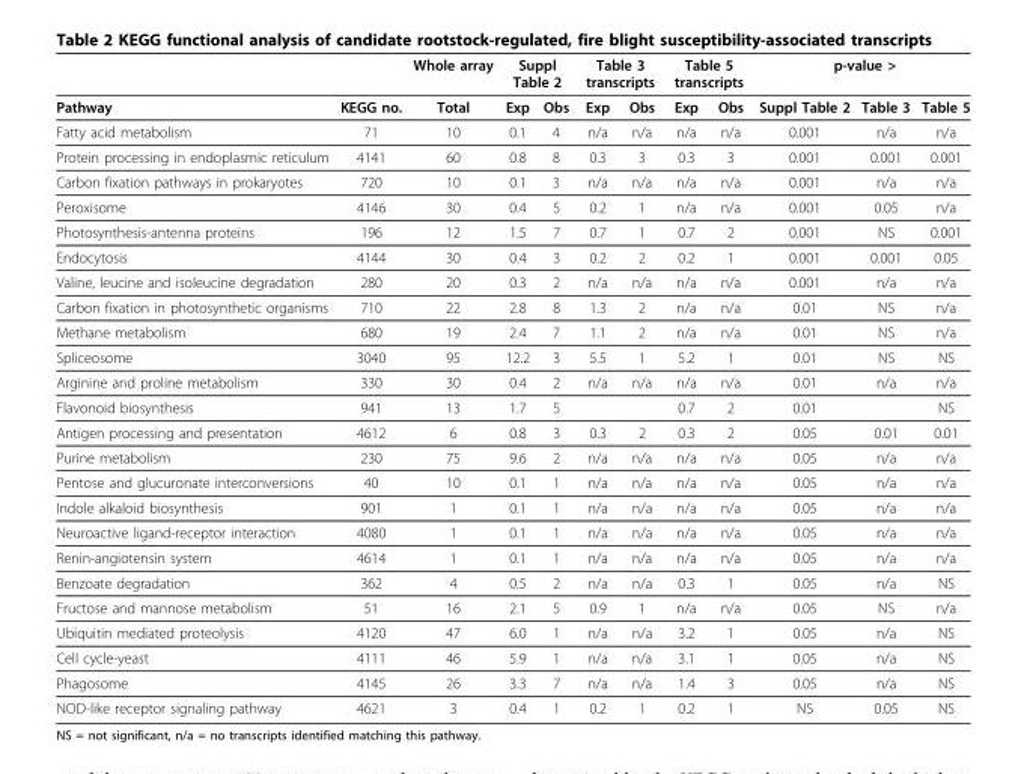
<table><thead><tr><td rowspan="2">Pathway</td><td rowspan="2">KEGG no.</td><td rowspan="2">Whole array Total</td><td colspan="2">Suppl Table 2</td><td colspan="2">Table 3 transcripts</td><td colspan="2">Table 5 transcripts</td><td colspan="3">p-value &gt;</td></tr><tr><td>Exp</td><td>Obs</td><td>Exp</td><td>Obs</td><td>Exp</td><td>Obs</td><td>Suppl Table 2</td><td>Table 3</td><td>Table 5</td></tr></thead><tbody><tr><td>Fatty acid metabolism</td><td>71</td><td>10</td><td>0.1</td><td>4</td><td>n/a</td><td>n/a</td><td>n/a</td><td>n/a</td><td>0.001</td><td>n/a</td><td>n/a</td></tr><tr><td>Protein processing in endoplasmic reticulum</td><td>4141</td><td>60</td><td>0.8</td><td>8</td><td>0.3</td><td>3</td><td>0.3</td><td>3</td><td>0.001</td><td>0.001</td><td>0.001</td></tr><tr><td>Carbon fixation pathways in prokaryotes</td><td>720</td><td>10</td><td>0.1</td><td>3</td><td>n/a</td><td>n/a</td><td>n/a</td><td>n/a</td><td>0.001</td><td>n/a</td><td>n/a</td></tr><tr><td>Peroxisome</td><td>4146</td><td>30</td><td>0.4</td><td>5</td><td>0.2</td><td>1</td><td>n/a</td><td>n/a</td><td>0.001</td><td>0.05</td><td>n/a</td></tr><tr><td>Photosynthesis-antenna proteins</td><td>196</td><td>12</td><td>1.5</td><td>7</td><td>0.7</td><td>1</td><td>0.7</td><td>2</td><td>0.001</td><td>NS</td><td>0.001</td></tr><tr><td>Endocytosis</td><td>4144</td><td>30</td><td>0.4</td><td>3</td><td>0.2</td><td>2</td><td>0.2</td><td>1</td><td>0.001</td><td>0.001</td><td>0.05</td></tr><tr><td>Valine, leucine and isoleucine degradation</td><td>280</td><td>20</td><td>0.3</td><td>2</td><td>n/a</td><td>n/a</td><td>n/a</td><td>n/a</td><td>0.001</td><td>n/a</td><td>n/a</td></tr><tr><td>Carbon fixation in photosynthetic organisms</td><td>710</td><td>22</td><td>2.8</td><td>8</td><td>1.3</td><td>2</td><td>n/a</td><td>n/a</td><td>0.01</td><td>NS</td><td>n/a</td></tr><tr><td>Methane metabolism</td><td>680</td><td>19</td><td>2.4</td><td>7</td><td>1.1</td><td>2</td><td>n/a</td><td>n/a</td><td>0.01</td><td>NS</td><td>n/a</td></tr><tr><td>Spliceosome</td><td>3040</td><td>95</td><td>12.2</td><td>3</td><td>5.5</td><td>1</td><td>5.2</td><td>1</td><td>0.01</td><td>NS</td><td>NS</td></tr><tr><td>Arginine and proline metabolism</td><td>330</td><td>30</td><td>0.4</td><td>2</td><td>n/a</td><td>n/a</td><td>n/a</td><td>n/a</td><td>0.01</td><td>n/a</td><td>n/a</td></tr><tr><td>Flavonoid biosynthesis</td><td>941</td><td>13</td><td>1.7</td><td>5</td><td></td><td></td><td>0.7</td><td>2</td><td>0.01</td><td></td><td>NS</td></tr><tr><td>Antigen processing and presentation</td><td>4612</td><td>6</td><td>0.8</td><td>3</td><td>0.3</td><td>2</td><td>0.3</td><td>2</td><td>0.05</td><td>0.01</td><td>0.01</td></tr><tr><td>Purine metabolism</td><td>230</td><td>75</td><td>9.6</td><td>2</td><td>n/a</td><td>n/a</td><td>n/a</td><td>n/a</td><td>0.05</td><td>n/a</td><td>n/a</td></tr><tr><td>Pentose and glucuronate interconversions</td><td>40</td><td>10</td><td>0.1</td><td>1</td><td>n/a</td><td>n/a</td><td>n/a</td><td>n/a</td><td>0.05</td><td>n/a</td><td>n/a</td></tr><tr><td>Indole alkaloid biosynthesis</td><td>901</td><td>1</td><td>0.1</td><td>1</td><td>n/a</td><td>n/a</td><td>n/a</td><td>n/a</td><td>0.05</td><td>n/a</td><td>n/a</td></tr><tr><td>Neuroactive ligand-receptor interaction</td><td>4080</td><td>1</td><td>0.1</td><td>1</td><td>n/a</td><td>n/a</td><td>n/a</td><td>n/a</td><td>0.05</td><td>n/a</td><td>n/a</td></tr><tr><td>Renin-angiotensin system</td><td>4614</td><td>1</td><td>0.1</td><td>1</td><td>n/a</td><td>n/a</td><td>n/a</td><td>n/a</td><td>0.05</td><td>n/a</td><td>n/a</td></tr><tr><td>Benzoate degradation</td><td>362</td><td>4</td><td>0.5</td><td>2</td><td>n/a</td><td>n/a</td><td>0.3</td><td>1</td><td>0.05</td><td>n/a</td><td>NS</td></tr><tr><td>Fructose and mannose metabolism</td><td>51</td><td>16</td><td>2.1</td><td>5</td><td>0.9</td><td>1</td><td>n/a</td><td>n/a</td><td>0.05</td><td>NS</td><td>n/a</td></tr><tr><td>Ubiquitin mediated proteolysis</td><td>4120</td><td>47</td><td>6.0</td><td>1</td><td>n/a</td><td>n/a</td><td>3.2</td><td>1</td><td>0.05</td><td>n/a</td><td>NS</td></tr><tr><td>Cell cycle-yeast</td><td>4111</td><td>46</td><td>5.9</td><td>1</td><td>n/a</td><td>n/a</td><td>3.1</td><td>1</td><td>0.05</td><td>n/a</td><td>NS</td></tr><tr><td>Phagosome</td><td>4145</td><td>26</td><td>3.3</td><td>7</td><td>n/a</td><td>n/a</td><td>1.4</td><td>3</td><td>0.05</td><td>n/a</td><td>NS</td></tr><tr><td>NOD-like receptor signaling pathway</td><td>4621</td><td>3</td><td>0.4</td><td>1</td><td>0.2</td><td>1</td><td>0.2</td><td>1</td><td>NS</td><td>0.05</td><td>NS</td></tr></tbody></table>